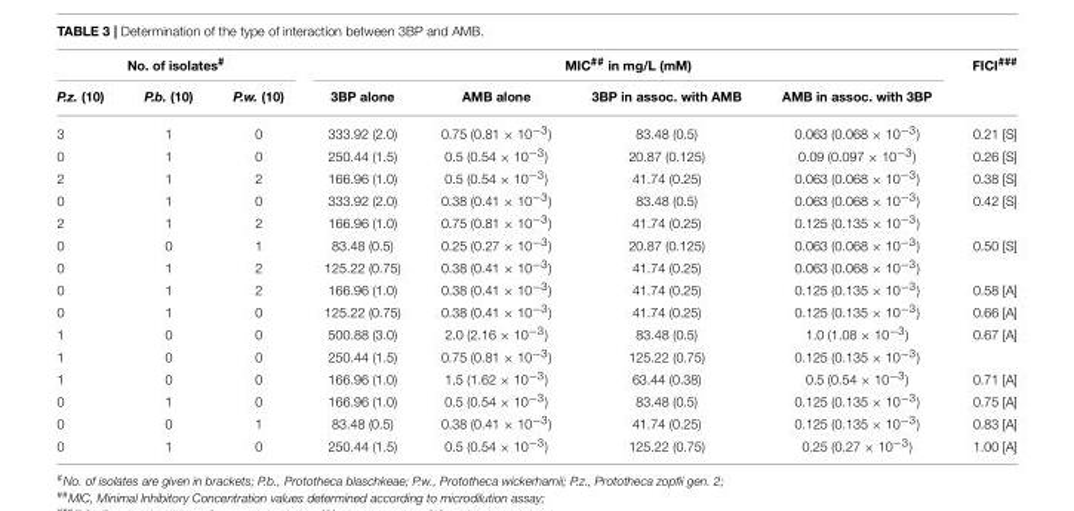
<table><thead><tr><td colspan="3">No. of isolates<sup>#</sup></td><td colspan="4">MIC<sup>##</sup> in mg/L (mM)</td><td rowspan="2">FICI<sup>###</sup></td></tr><tr><td>P.z. (10)</td><td>P.b. (10)</td><td>P.w. (10)</td><td>3BP alone</td><td>AMB alone</td><td>3BP in assoc. with AMB</td><td>AMB in assoc. with 3BP</td></tr></thead><tbody><tr><td>3</td><td>1</td><td>0</td><td>333.92 (2.0)</td><td>0.75 (0.81 × 10<sup>−3</sup>)</td><td>83.48 (0.5)</td><td>0.063 (0.068 × 10<sup>−3</sup>)</td><td>0.21 [S]</td></tr><tr><td>0</td><td>1</td><td>0</td><td>250.44 (1.5)</td><td>0.5 (0.54 × 10<sup>−3</sup>)</td><td>20.87 (0.125)</td><td>0.09 (0.097 × 10<sup>−3</sup>)</td><td>0.26 [S]</td></tr><tr><td>2</td><td>1</td><td>2</td><td>166.96 (1.0)</td><td>0.5 (0.54 × 10<sup>−3</sup>)</td><td>41.74 (0.25)</td><td>0.063 (0.068 × 10<sup>−3</sup>)</td><td>0.38 [S]</td></tr><tr><td>0</td><td>1</td><td>0</td><td>333.92 (2.0)</td><td>0.38 (0.41 × 10<sup>−3</sup>)</td><td>83.48 (0.5)</td><td>0.063 (0.068 × 10<sup>−3</sup>)</td><td>0.42 [S]</td></tr><tr><td>2</td><td>1</td><td>2</td><td>166.96 (1.0)</td><td>0.75 (0.81 × 10<sup>−3</sup>)</td><td>41.74 (0.25)</td><td>0.125 (0.135 × 10<sup>−3</sup>)</td><td></td></tr><tr><td>0</td><td>0</td><td>1</td><td>83.48 (0.5)</td><td>0.25 (0.27 × 10<sup>−3</sup>)</td><td>20.87 (0.125)</td><td>0.063 (0.068 × 10<sup>−3</sup>)</td><td>0.50 [S]</td></tr><tr><td>0</td><td>1</td><td>2</td><td>125.22 (0.75)</td><td>0.38 (0.41 × 10<sup>−3</sup>)</td><td>41.74 (0.25)</td><td>0.063 (0.068 × 10<sup>−3</sup>)</td><td></td></tr><tr><td>0</td><td>1</td><td>2</td><td>166.96 (1.0)</td><td>0.38 (0.41 × 10<sup>−3</sup>)</td><td>41.74 (0.25)</td><td>0.125 (0.135 × 10<sup>−3</sup>)</td><td>0.58 [A]</td></tr><tr><td>0</td><td>1</td><td>0</td><td>125.22 (0.75)</td><td>0.38 (0.41 × 10<sup>−3</sup>)</td><td>41.74 (0.25)</td><td>0.125 (0.135 × 10<sup>−3</sup>)</td><td>0.66 [A]</td></tr><tr><td>1</td><td>0</td><td>0</td><td>500.88 (3.0)</td><td>2.0 (2.16 × 10<sup>−3</sup>)</td><td>83.48 (0.5)</td><td>1.0 (1.08 × 10<sup>−3</sup>)</td><td>0.67 [A]</td></tr><tr><td>1</td><td>0</td><td>0</td><td>250.44 (1.5)</td><td>0.75 (0.81 × 10<sup>−3</sup>)</td><td>125.22 (0.75)</td><td>0.125 (0.135 × 10<sup>−3</sup>)</td><td></td></tr><tr><td>1</td><td>0</td><td>0</td><td>166.96 (1.0)</td><td>1.5 (1.62 × 10<sup>−3</sup>)</td><td>63.44 (0.38)</td><td>0.5 (0.54 × 10<sup>−3</sup>)</td><td>0.71 [A]</td></tr><tr><td>0</td><td>1</td><td>0</td><td>166.96 (1.0)</td><td>0.5 (0.54 × 10<sup>−3</sup>)</td><td>83.48 (0.5)</td><td>0.125 (0.135 × 10<sup>−3</sup>)</td><td>0.75 [A]</td></tr><tr><td>0</td><td>0</td><td>1</td><td>83.48 (0.5)</td><td>0.38 (0.41 × 10<sup>−3</sup>)</td><td>41.74 (0.25)</td><td>0.125 (0.135 × 10<sup>−3</sup>)</td><td>0.83 [A]</td></tr><tr><td>0</td><td>1</td><td>0</td><td>250.44 (1.5)</td><td>0.5 (0.54 × 10<sup>−3</sup>)</td><td>125.22 (0.75)</td><td>0.25 (0.27 × 10<sup>−3</sup>)</td><td>1.00 [A]</td></tr></tbody></table>